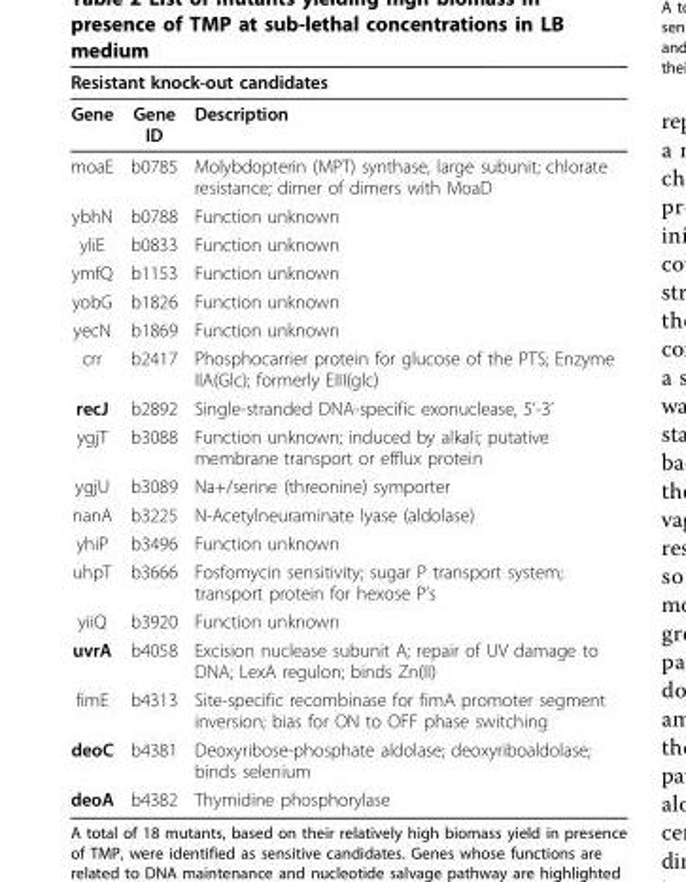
<table><thead><tr><td colspan="3">Resistant knock-out candidates</td></tr><tr><td>Gene</td><td>Gene ID</td><td>Description</td></tr></thead><tbody><tr><td>moaE</td><td>b0785</td><td>Molybdopterin (MPT) synthase, large subunit; chlorate resistance; dimer of dimers with MoaD</td></tr><tr><td>ybhN</td><td>b0788</td><td>Function unknown</td></tr><tr><td>yliE</td><td>b0833</td><td>Function unknown</td></tr><tr><td>ymfQ</td><td>b1153</td><td>Function unknown</td></tr><tr><td>yobG</td><td>b1826</td><td>Function unknown</td></tr><tr><td>yecN</td><td>b1869</td><td>Function unknown</td></tr><tr><td>crr</td><td>b2417</td><td>Phosphocarrier protein for glucose of the PTS; Enzyme IIA(Glc); formerly EIII(glc)</td></tr><tr><td>recJ</td><td>b2892</td><td>Single-stranded DNA-specific exonuclease, 5’-3’</td></tr><tr><td>ygjT</td><td>b3088</td><td>Function unknown; induced by alkali; putative membrane transport or efflux protein</td></tr><tr><td>ygjU</td><td>b3089</td><td>Na+/serine (threonine) symporter</td></tr><tr><td>nanA</td><td>b3225</td><td>N-Acetylneuraminate lyase (aldolase)</td></tr><tr><td>yhiP</td><td>b3496</td><td>Function unknown</td></tr><tr><td>uhpT</td><td>b3666</td><td>Fosfomycin sensitivity; sugar P transport system; transport protein for hexose P’s</td></tr><tr><td>yiiQ</td><td>b3920</td><td>Function unknown</td></tr><tr><td>uvrA</td><td>b4058</td><td>Excision nuclease subunit A; repair of UV damage to DNA; LexA regulon; binds Zn(II)</td></tr><tr><td>fimE</td><td>b4313</td><td>Site-specific recombinase for fimA promoter segment inversion; bias for ON to OFF phase switching</td></tr><tr><td>deoC</td><td>b4381</td><td>Deoxyribose-phosphate aldolase; deoxyriboaldolase; binds selenium</td></tr><tr><td>deoA</td><td>b4382</td><td>Thymidine phosphorylase</td></tr></tbody></table>